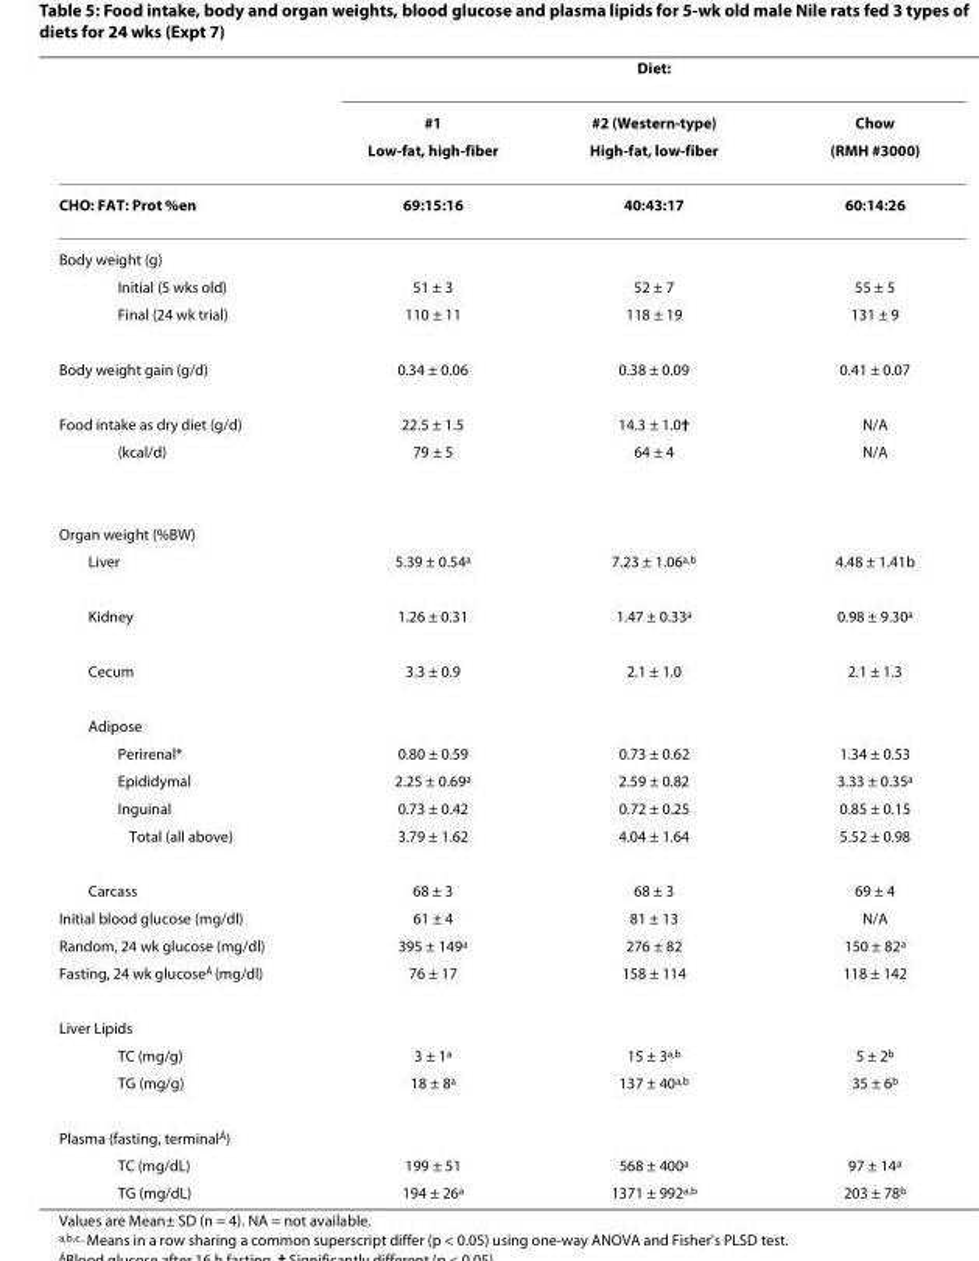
<table><thead><tr><td rowspan="3"></td><td colspan="3">Diet:</td></tr><tr><td rowspan="2">#1 Low-fat, high-fiber</td><td rowspan="2">#2 (Western-type) High-fat, low-fiber</td><td rowspan="2">Chow (RMH #3000)</td></tr><tr></tr></thead><tbody><tr><td>CHO: FAT: Prot %en</td><td>69:15:16</td><td>40:43:17</td><td>60:14:26</td></tr><tr><td colspan="4">Body weight (g)</td></tr><tr><td>Initial (5 wks old)</td><td>51 ± 3</td><td>52 ± 7</td><td>55 ± 5</td></tr><tr><td>Final (24 wk trial)</td><td>110 ± 11</td><td>118 ± 19</td><td>131 ± 9</td></tr><tr><td>Body weight gain (g/d)</td><td>0.34 ± 0.06</td><td>0.38 ± 0.09</td><td>0.41 ± 0.07</td></tr><tr><td>Food intake as dry diet (g/d)</td><td>22.5 ± 1.5</td><td>14.3 ± 1.0†</td><td>N/A</td></tr><tr><td>(kcal/d)</td><td>79 ± 5</td><td>64 ± 4</td><td>N/A</td></tr><tr><td colspan="4">Organ weight (%BW)</td></tr><tr><td>Liver</td><td>5.39 ± 0.54<sup>a</sup></td><td>7.23 ± 1.06<sup>a,b</sup></td><td>4.48 ± 1.41b</td></tr><tr><td>Kidney</td><td>1.26 ± 0.31</td><td>1.47 ± 0.33<sup>a</sup></td><td>0.98 ± 9.30<sup>a</sup></td></tr><tr><td>Cecum</td><td>3.3 ± 0.9</td><td>2.1 ± 1.0</td><td>2.1 ± 1.3</td></tr><tr><td colspan="4">Adipose</td></tr><tr><td>Perirenal*</td><td>0.80 ± 0.59</td><td>0.73 ± 0.62</td><td>1.34 ± 0.53</td></tr><tr><td>Epididymal</td><td>2.25 ± 0.69<sup>a</sup></td><td>2.59 ± 0.82</td><td>3.33 ± 0.35<sup>a</sup></td></tr><tr><td>Inguinal</td><td>0.73 ± 0.42</td><td>0.72 ± 0.25</td><td>0.85 ± 0.15</td></tr><tr><td>Total (all above)</td><td>3.79 ± 1.62</td><td>4.04 ± 1.64</td><td>5.52 ± 0.98</td></tr><tr><td>Carcass</td><td>68 ± 3</td><td>68 ± 3</td><td>69 ± 4</td></tr><tr><td>Initial blood glucose (mg/dl)</td><td>61 ± 4</td><td>81 ± 13</td><td>N/A</td></tr><tr><td>Random, 24 wk glucose (mg/dl)</td><td>395 ± 149<sup>a</sup></td><td>276 ± 82</td><td>150 ± 82<sup>a</sup></td></tr><tr><td>Fasting, 24 wk glucose<sup>Á</sup> (mg/dl)</td><td>76 ± 17</td><td>158 ± 114</td><td>118 ± 142</td></tr><tr><td colspan="4">Liver Lipids</td></tr><tr><td>TC (mg/g)</td><td>3 ± 1<sup>a</sup></td><td>15 ± 3<sup>a,b</sup></td><td>5 ± 2<sup>b</sup></td></tr><tr><td>TG (mg/g)</td><td>18 ± 8<sup>a</sup></td><td>137 ± 40<sup>a,b</sup></td><td>35 ± 6<sup>b</sup></td></tr><tr><td colspan="4">Plasma (fasting, terminal<sup>Á</sup>)</td></tr><tr><td>TC (mg/dL)</td><td>199 ± 51</td><td>568 ± 400<sup>a</sup></td><td>97 ± 14<sup>a</sup></td></tr><tr><td>TG (mg/dL)</td><td>194 ± 26<sup>a</sup></td><td>1371 ± 992<sup>a,b</sup></td><td>203 ± 78<sup>b</sup></td></tr></tbody></table>